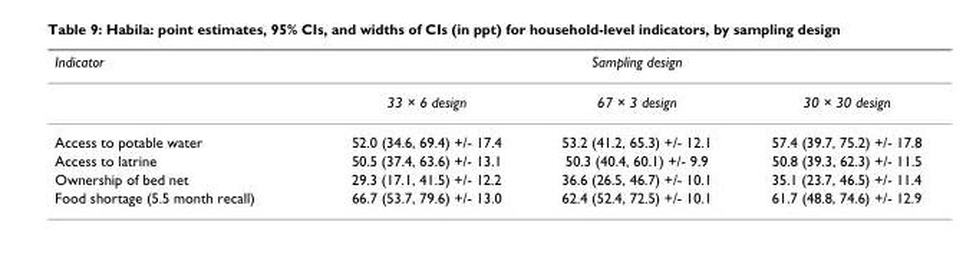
<table><thead><tr><td rowspan="2">Indicator</td><td colspan="3">Sampling design</td></tr><tr><td>33 × 6 design</td><td>67 × 3 design</td><td>30 × 30 design</td></tr></thead><tbody><tr><td>Access to potable water</td><td>52.0 (34.6, 69.4) +/- 17.4</td><td>53.2 (41.2, 65.3) +/- 12.1</td><td>57.4 (39.7, 75.2) +/- 17.8</td></tr><tr><td>Access to latrine</td><td>50.5 (37.4, 63.6) +/- 13.1</td><td>50.3 (40.4, 60.1) +/- 9.9</td><td>50.8 (39.3, 62.3) +/- 11.5</td></tr><tr><td>Ownership of bed net</td><td>29.3 (17.1, 41.5) +/- 12.2</td><td>36.6 (26.5, 46.7) +/- 10.1</td><td>35.1 (23.7, 46.5) +/- 11.4</td></tr><tr><td>Food shortage (5.5 month recall)</td><td>66.7 (53.7, 79.6) +/- 13.0</td><td>62.4 (52.4, 72.5) +/- 10.1</td><td>61.7 (48.8, 74.6) +/- 12.9</td></tr></tbody></table>